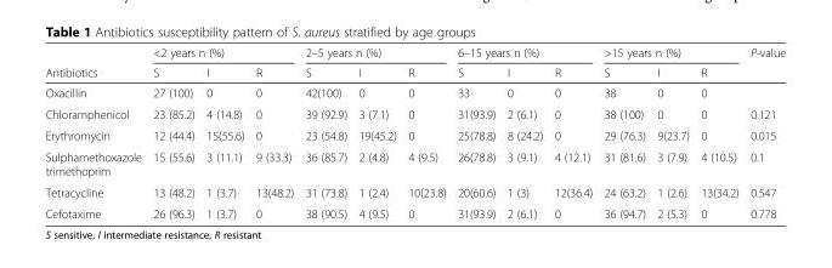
<table><thead><tr><td rowspan="2">Antibiotics</td><td colspan="3">&lt;2 years n (%)</td><td colspan="3">2–5 years n (%)</td><td colspan="3">6–15 years n (%)</td><td colspan="3">&gt;15 years n (%)</td><td rowspan="2">P-value</td></tr><tr><td>S</td><td>I</td><td>R</td><td>S</td><td>I</td><td>R</td><td>S</td><td>I</td><td>R</td><td>S</td><td>I</td><td>R</td></tr></thead><tbody><tr><td>Oxacillin</td><td>27 (100)</td><td>0</td><td>0</td><td>42(100)</td><td>0</td><td>0</td><td>33</td><td>0</td><td>0</td><td>38</td><td>0</td><td>0</td><td></td></tr><tr><td>Chloramphenicol</td><td>23 (85.2)</td><td>4 (14.8)</td><td>0</td><td>39 (92.9)</td><td>3 (7.1)</td><td>0</td><td>31(93.9)</td><td>2 (6.1)</td><td>0</td><td>38 (100)</td><td>0</td><td>0</td><td>0.121</td></tr><tr><td>Erythromycin</td><td>12 (44.4)</td><td>15(55.6)</td><td>0</td><td>23 (54.8)</td><td>19(45.2)</td><td>0</td><td>25(78.8)</td><td>8 (24.2)</td><td>0</td><td>29 (76.3)</td><td>9(23.7)</td><td>0</td><td>0.015</td></tr><tr><td>Sulphamethoxazole trimethoprim</td><td>15 (55.6)</td><td>3 (11.1)</td><td>9 (33.3)</td><td>36 (85.7)</td><td>2 (4.8)</td><td>4 (9.5)</td><td>26(78.8)</td><td>3 (9.1)</td><td>4 (12.1)</td><td>31 (81.6)</td><td>3 (7.9)</td><td>4 (10.5)</td><td>0.1</td></tr><tr><td>Tetracycline</td><td>13 (48.2)</td><td>1 (3.7)</td><td>13(48.2)</td><td>31 (73.8)</td><td>1 (2.4)</td><td>10(23.8)</td><td>20(60.6)</td><td>1 (3)</td><td>12(36.4)</td><td>24 (63.2)</td><td>1 (2.6)</td><td>13(34.2)</td><td>0.547</td></tr><tr><td>Cefotaxime</td><td>26 (96.3)</td><td>1 (3.7)</td><td>0</td><td>38 (90.5)</td><td>4 (9.5)</td><td>0</td><td>31(93.9)</td><td>2 (6.1)</td><td>0</td><td>36 (94.7)</td><td>2 (5.3)</td><td>0</td><td>0.778</td></tr></tbody></table>